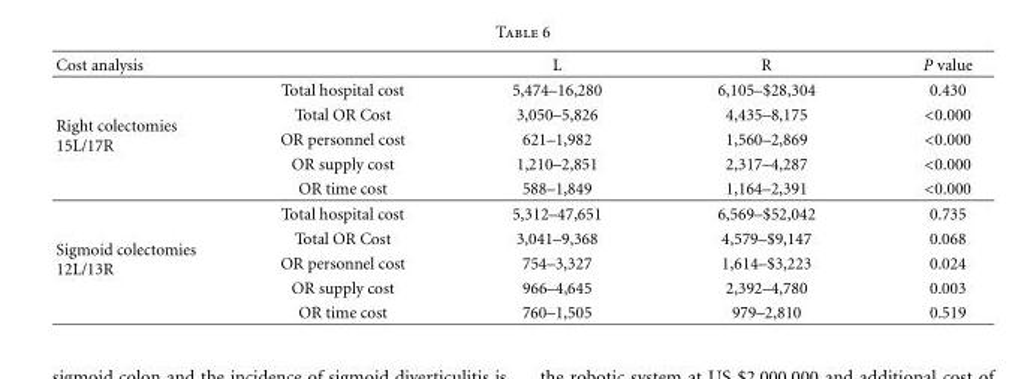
<table><thead><tr><td>Cost analysis</td><td></td><td>L</td><td>R</td><td>P value</td></tr></thead><tbody><tr><td rowspan="5">Right colectomies 15L/17R</td><td>Total hospital cost</td><td>5,474–16,280</td><td>6,105–$28,304</td><td>0.430</td></tr><tr><td>Total OR Cost</td><td>3,050–5,826</td><td>4,435–8,175</td><td>&lt;0.000</td></tr><tr><td>OR personnel cost</td><td>621–1,982</td><td>1,560–2,869</td><td>&lt;0.000</td></tr><tr><td>OR supply cost</td><td>1,210–2,851</td><td>2,317–4,287</td><td>&lt;0.000</td></tr><tr><td>OR time cost</td><td>588–1,849</td><td>1,164–2,391</td><td>&lt;0.000</td></tr><tr><td rowspan="5">Sigmoid colectomies 12L/13R</td><td>Total hospital cost</td><td>5,312–47,651</td><td>6,569–$52,042</td><td>0.735</td></tr><tr><td>Total OR Cost</td><td>3,041–9,368</td><td>4,579–$9,147</td><td>0.068</td></tr><tr><td>OR personnel cost</td><td>754–3,327</td><td>1,614–$3,223</td><td>0.024</td></tr><tr><td>OR supply cost</td><td>966–4,645</td><td>2,392–4,780</td><td>0.003</td></tr><tr><td>OR time cost</td><td>760–1,505</td><td>979–2,810</td><td>0.519</td></tr></tbody></table>